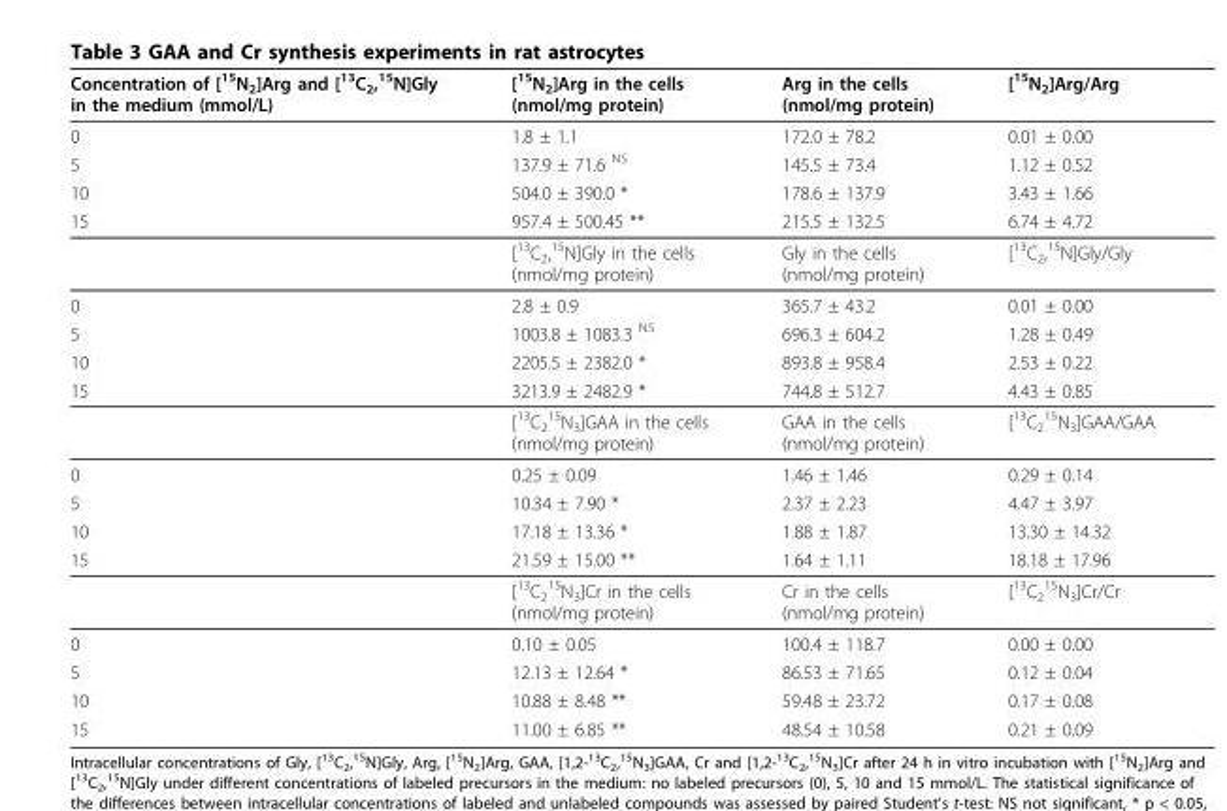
<table><thead><tr><td>Concentration of [<sup>15</sup>N<sub>2</sub>]Arg and [<sup>13</sup>C<sub>2</sub>,<sup>15</sup>N]Gly in the medium (mmol/L)</td><td>[<sup>15</sup>N<sub>2</sub>]Arg in the cells (nmol/mg protein)</td><td>Arg in the cells (nmol/mg protein)</td><td>[<sup>15</sup>N<sub>2</sub>]Arg/Arg</td></tr></thead><tbody><tr><td>0</td><td>1.8 ± 1.1</td><td>172.0 ± 78.2</td><td>0.01 ± 0.00</td></tr><tr><td>5</td><td>137.9 ± 71.6 <sup>NS</sup></td><td>145.5 ± 73.4</td><td>1.12 ± 0.52</td></tr><tr><td>10</td><td>504.0 ± 390.0 *</td><td>178.6 ± 137.9</td><td>3.43 ± 1.66</td></tr><tr><td rowspan="2">15</td><td>957.4 ± 500.45 **</td><td>215.5 ± 132.5</td><td>6.74 ± 4.72</td></tr><tr><td>[<sup>13</sup>C<sub>2</sub>,<sup>15</sup>N]Gly in the cells (nmol/mg protein)</td><td>Gly in the cells (nmol/mg protein)</td><td>[<sup>13</sup>C<sub>2</sub>,<sup>15</sup>N]Gly/Gly</td></tr><tr><td>0</td><td>2.8 ± 0.9</td><td>365.7 ± 43.2</td><td>0.01 ± 0.00</td></tr><tr><td>5</td><td>1003.8 ± 1083.3 <sup>NS</sup></td><td>696.3 ± 604.2</td><td>1.28 ± 0.49</td></tr><tr><td>10</td><td>2205.5 ± 2382.0 *</td><td>893.8 ± 958.4</td><td>2.53 ± 0.22</td></tr><tr><td rowspan="2">15</td><td>3213.9 ± 2482.9 *</td><td>744.8 ± 512.7</td><td>4.43 ± 0.85</td></tr><tr><td>[<sup>13</sup>C<sub>2</sub> <sup>15</sup>N<sub>3</sub>]GAA in the cells (nmol/mg protein)</td><td>GAA in the cells (nmol/mg protein)</td><td>[<sup>13</sup>C<sub>2</sub> <sup>15</sup>N<sub>3</sub>]GAA/GAA</td></tr><tr><td>0</td><td>0.25 ± 0.09</td><td>1.46 ± 1.46</td><td>0.29 ± 0.14</td></tr><tr><td>5</td><td>10.34 ± 7.90 *</td><td>2.37 ± 2.23</td><td>4.47 ± 3.97</td></tr><tr><td>10</td><td>17.18 ± 13.36 *</td><td>1.88 ± 1.87</td><td>13.30 ± 14.32</td></tr><tr><td rowspan="2">15</td><td>21.59 ± 15.00 **</td><td>1.64 ± 1.11</td><td>18.18 ± 17.96</td></tr><tr><td>[<sup>13</sup>C<sub>2</sub> <sup>15</sup>N<sub>3</sub>]Cr in the cells (nmol/mg protein)</td><td>Cr in the cells (nmol/mg protein)</td><td>[<sup>13</sup>C<sub>2</sub> <sup>15</sup>N<sub>3</sub>]Cr/Cr</td></tr><tr><td>0</td><td>0.10 ± 0.05</td><td>100.4 ± 118.7</td><td>0.00 ± 0.00</td></tr><tr><td>5</td><td>12.13 ± 12.64 *</td><td>86.53 ± 71.65</td><td>0.12 ± 0.04</td></tr><tr><td>10</td><td>10.88 ± 8.48 **</td><td>59.48 ± 23.72</td><td>0.17 ± 0.08</td></tr><tr><td>15</td><td>11.00 ± 6.85 **</td><td>48.54 ± 10.58</td><td>0.21 ± 0.09</td></tr></tbody></table>